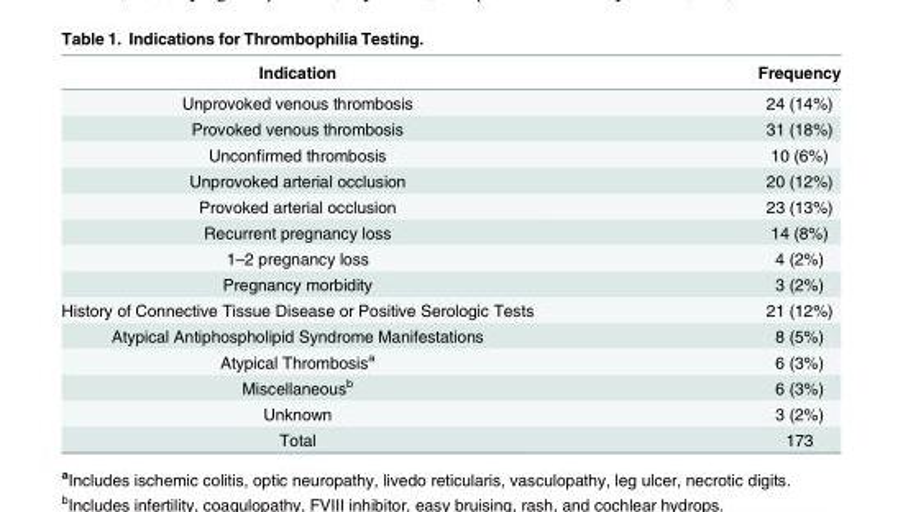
<table><thead><tr><td>Indication</td><td>Frequency</td></tr></thead><tbody><tr><td>Unprovoked venous thrombosis</td><td>24 (14%)</td></tr><tr><td>Provoked venous thrombosis</td><td>31 (18%)</td></tr><tr><td>Unconfirmed thrombosis</td><td>10 (6%)</td></tr><tr><td>Unprovoked arterial occlusion</td><td>20 (12%)</td></tr><tr><td>Provoked arterial occlusion</td><td>23 (13%)</td></tr><tr><td>Recurrent pregnancy loss</td><td>14 (8%)</td></tr><tr><td>1–2 pregnancy loss</td><td>4 (2%)</td></tr><tr><td>Pregnancy morbidity</td><td>3 (2%)</td></tr><tr><td>History of Connective Tissue Disease or Positive Serologic Tests</td><td>21 (12%)</td></tr><tr><td>Atypical Antiphospholipid Syndrome Manifestations</td><td>8 (5%)</td></tr><tr><td>Atypical Thrombosis<sup>a</sup></td><td>6 (3%)</td></tr><tr><td>Miscellaneous<sup>b</sup></td><td>6 (3%)</td></tr><tr><td>Unknown</td><td>3 (2%)</td></tr><tr><td>Total</td><td>173</td></tr></tbody></table>